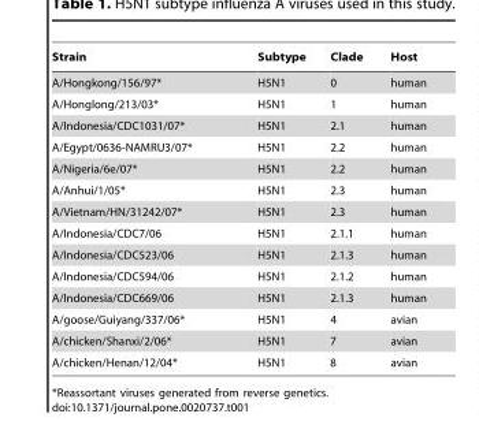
<table><thead><tr><td>Strain</td><td>Subtype</td><td>Clade</td><td>Host</td></tr></thead><tbody><tr><td>A/Hongkong/156/97*</td><td>H5N1</td><td>0</td><td>human</td></tr><tr><td>A/Honglong/213/03*</td><td>H5N1</td><td>1</td><td>human</td></tr><tr><td>A/Indonesia/CDC1031/07*</td><td>H5N1</td><td>2.1</td><td>human</td></tr><tr><td>A/Egypt/0636-NAMRU3/07*</td><td>H5N1</td><td>2.2</td><td>human</td></tr><tr><td>A/Nigeria/6e/07*</td><td>H5N1</td><td>2.2</td><td>human</td></tr><tr><td>A/Anhui/1/05*</td><td>H5N1</td><td>2.3</td><td>human</td></tr><tr><td>A/Vietnam/HN/31242/07*</td><td>H5N1</td><td>2.3</td><td>human</td></tr><tr><td>A/Indonesia/CDC7/06</td><td>H5N1</td><td>2.1.1</td><td>human</td></tr><tr><td>A/Indonesia/CDC523/06</td><td>H5N1</td><td>2.1.3</td><td>human</td></tr><tr><td>A/Indonesia/CDC594/06</td><td>H5N1</td><td>2.1.2</td><td>human</td></tr><tr><td>A/Indonesia/CDC669/06</td><td>H5N1</td><td>2.1.3</td><td>human</td></tr><tr><td>A/goose/Guiyang/337/06*</td><td>H5N1</td><td>4</td><td>avian</td></tr><tr><td>A/chicken/Shanxi/2/06*</td><td>H5N1</td><td>7</td><td>avian</td></tr><tr><td>A/chicken/Henan/12/04*</td><td>H5N1</td><td>8</td><td>avian</td></tr></tbody></table>